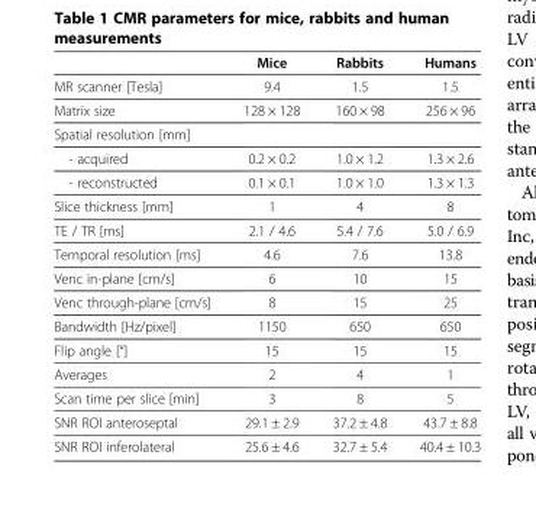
<table><thead><tr><td></td><td>Mice</td><td>Rabbits</td><td>Humans</td></tr></thead><tbody><tr><td>MR scanner [Tesla]</td><td>9.4</td><td>1.5</td><td>1.5</td></tr><tr><td>Matrix size</td><td>128 × 128</td><td>160 × 98</td><td>256 × 96</td></tr><tr><td colspan="4">Spatial resolution [mm]</td></tr><tr><td>- acquired</td><td>0.2 × 0.2</td><td>1.0 × 1.2</td><td>1.3 × 2.6</td></tr><tr><td>- reconstructed</td><td>0.1 × 0.1</td><td>1.0 × 1.0</td><td>1.3 × 1.3</td></tr><tr><td>Slice thickness [mm]</td><td>1</td><td>4</td><td>8</td></tr><tr><td>TE / TR [ms]</td><td>2.1 / 4.6</td><td>5.4 / 7.6</td><td>5.0 / 6.9</td></tr><tr><td>Temporal resolution [ms]</td><td>4.6</td><td>7.6</td><td>13.8</td></tr><tr><td>Venc in-plane [cm/s]</td><td>6</td><td>10</td><td>15</td></tr><tr><td>Venc through-plane [cm/s]</td><td>8</td><td>15</td><td>25</td></tr><tr><td>Bandwidth [Hz/pixel]</td><td>1150</td><td>650</td><td>650</td></tr><tr><td>Flip angle [°]</td><td>15</td><td>15</td><td>15</td></tr><tr><td>Averages</td><td>2</td><td>4</td><td>1</td></tr><tr><td>Scan time per slice [min]</td><td>3</td><td>8</td><td>5</td></tr><tr><td>SNR ROI anteroseptal</td><td>29.1 ± 2.9</td><td>37.2 ± 4.8</td><td>43.7 ± 8.8</td></tr><tr><td>SNR ROI inferolateral</td><td>25.6 ± 4.6</td><td>32.7 ± 5.4</td><td>40.4 ± 10.3</td></tr></tbody></table>